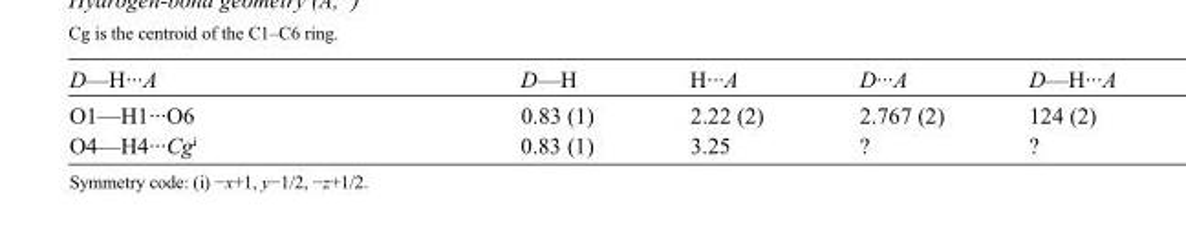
<table><tbody><tr><td>D—H···A</td><td>D—H</td><td>H···A</td><td>D···A</td><td>D—H···A</td></tr><tr><td>O1—H1···O6</td><td>0.83 (1)</td><td>2.22 (2)</td><td>2.767 (2)</td><td>124 (2)</td></tr><tr><td>O4—H4···Cg<sup>i</sup></td><td>0.83 (1)</td><td>3.25</td><td>?</td><td>?</td></tr></tbody></table>